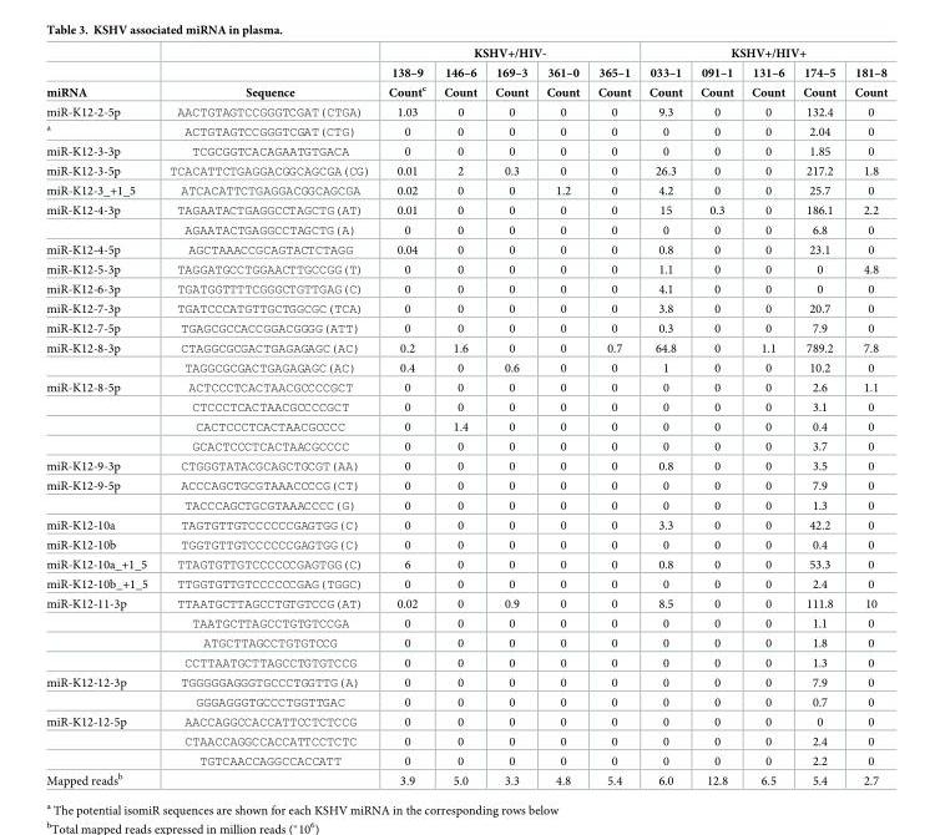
<table><thead><tr><td rowspan="3">miRNA</td><td rowspan="3">Sequence</td><td colspan="5">KSHV+/HIV-</td><td colspan="5">KSHV+/HIV+</td></tr><tr><td rowspan="2">138–9 Count<sup>c</sup></td><td rowspan="2">146–6 Count</td><td rowspan="2">169–3 Count</td><td rowspan="2">361–0 Count</td><td rowspan="2">365–1 Count</td><td rowspan="2">033–1 Count</td><td rowspan="2">091–1 Count</td><td rowspan="2">131–6 Count</td><td rowspan="2">174–5 Count</td><td rowspan="2">181–8 Count</td></tr><tr></tr></thead><tbody><tr><td>miR-K12-2-5p</td><td>AACTGTAGTCCGGGTCGAT(CTGA)</td><td>1.03</td><td>0</td><td>0</td><td>0</td><td>0</td><td>9.3</td><td>0</td><td>0</td><td>132.4</td><td>0</td></tr><tr><td><sup>a</sup></td><td>ACTGTAGTCCGGGTCGAT(CTG)</td><td>0</td><td>0</td><td>0</td><td>0</td><td>0</td><td>0</td><td>0</td><td>0</td><td>2.04</td><td>0</td></tr><tr><td>miR-K12-3-3p</td><td>TCGCGGTCACAGAATGTGACA</td><td>0</td><td>0</td><td>0</td><td>0</td><td>0</td><td>0</td><td>0</td><td>0</td><td>1.85</td><td>0</td></tr><tr><td>miR-K12-3-5p</td><td>TCACATTCTGAGGACGGCAGCGA(CG)</td><td>0.01</td><td>2</td><td>0.3</td><td>0</td><td>0</td><td>26.3</td><td>0</td><td>0</td><td>217.2</td><td>1.8</td></tr><tr><td>miR-K12-3_+1_5</td><td>ATCACATTCTGAGGACGGCAGCGA</td><td>0.02</td><td>0</td><td>0</td><td>1.2</td><td>0</td><td>4.2</td><td>0</td><td>0</td><td>25.7</td><td>0</td></tr><tr><td rowspan="2">miR-K12-4-3p</td><td>TAGAATACTGAGGCCTAGCTG(AT)</td><td>0.01</td><td>0</td><td>0</td><td>0</td><td>0</td><td>15</td><td>0.3</td><td>0</td><td>186.1</td><td>2.2</td></tr><tr><td>AGAATACTGAGGCCTAGCTG(A)</td><td>0</td><td>0</td><td>0</td><td>0</td><td>0</td><td>0</td><td>0</td><td>0</td><td>6.8</td><td>0</td></tr><tr><td>miR-K12-4-5p</td><td>AGCTAAACCGCAGTACTCTAGG</td><td>0.04</td><td>0</td><td>0</td><td>0</td><td>0</td><td>0.8</td><td>0</td><td>0</td><td>23.1</td><td>0</td></tr><tr><td>miR-K12-5-3p</td><td>TAGGATGCCTGGAACTTGCCGG(T)</td><td>0</td><td>0</td><td>0</td><td>0</td><td>0</td><td>1.1</td><td>0</td><td>0</td><td>0</td><td>4.8</td></tr><tr><td>miR-K12-6-3p</td><td>TGATGGTTTTCGGGCTGTTGAG(C)</td><td>0</td><td>0</td><td>0</td><td>0</td><td>0</td><td>4.1</td><td>0</td><td>0</td><td>0</td><td>0</td></tr><tr><td>miR-K12-7-3p</td><td>TGATCCCATGTTGCTGGCGC(TCA)</td><td>0</td><td>0</td><td>0</td><td>0</td><td>0</td><td>3.8</td><td>0</td><td>0</td><td>20.7</td><td>0</td></tr><tr><td>miR-K12-7-5p</td><td>TGAGCGCCACCGGACGGGG(ATT)</td><td>0</td><td>0</td><td>0</td><td>0</td><td>0</td><td>0.3</td><td>0</td><td>0</td><td>7.9</td><td>0</td></tr><tr><td rowspan="2">miR-K12-8-3p</td><td>CTAGGCGCGACTGAGAGAGC(AC)</td><td>0.2</td><td>1.6</td><td>0</td><td>0</td><td>0.7</td><td>64.8</td><td>0</td><td>1.1</td><td>789.2</td><td>7.8</td></tr><tr><td>TAGGCGCGACTGAGAGAGC(AC)</td><td>0.4</td><td>0</td><td>0.6</td><td>0</td><td>0</td><td>1</td><td>0</td><td>0</td><td>10.2</td><td>0</td></tr><tr><td rowspan="4">miR-K12-8-5p</td><td>ACTCCCTCACTAACGCCCCGCT</td><td>0</td><td>0</td><td>0</td><td>0</td><td>0</td><td>0</td><td>0</td><td>0</td><td>2.6</td><td>1.1</td></tr><tr><td>CTCCCTCACTAACGCCCCGCT</td><td>0</td><td>0</td><td>0</td><td>0</td><td>0</td><td>0</td><td>0</td><td>0</td><td>3.1</td><td>0</td></tr><tr><td>CACTCCCTCACTAACGCCCC</td><td>0</td><td>1.4</td><td>0</td><td>0</td><td>0</td><td>0</td><td>0</td><td>0</td><td>0.4</td><td>0</td></tr><tr><td>GCACTCCCTCACTAACGCCCC</td><td>0</td><td>0</td><td>0</td><td>0</td><td>0</td><td>0</td><td>0</td><td>0</td><td>3.7</td><td>0</td></tr><tr><td>miR-K12-9-3p</td><td>CTGGGTATACGCAGCTGCGT(AA)</td><td>0</td><td>0</td><td>0</td><td>0</td><td>0</td><td>0.8</td><td>0</td><td>0</td><td>3.5</td><td>0</td></tr><tr><td rowspan="2">miR-K12-9-5p</td><td>ACCCAGCTGCGTAAACCCCG(CT)</td><td>0</td><td>0</td><td>0</td><td>0</td><td>0</td><td>0</td><td>0</td><td>0</td><td>7.9</td><td>0</td></tr><tr><td>TACCCAGCTGCGTAAACCCC(G)</td><td>0</td><td>0</td><td>0</td><td>0</td><td>0</td><td>0</td><td>0</td><td>0</td><td>1.3</td><td>0</td></tr><tr><td>miR-K12-10a</td><td>TAGTGTTGTCCCCCCGAGTGG(C)</td><td>0</td><td>0</td><td>0</td><td>0</td><td>0</td><td>3.3</td><td>0</td><td>0</td><td>42.2</td><td>0</td></tr><tr><td>miR-K12-10b</td><td>TGGTGTTGTCCCCCCGAGTGG(C)</td><td>0</td><td>0</td><td>0</td><td>0</td><td>0</td><td>0</td><td>0</td><td>0</td><td>0.4</td><td>0</td></tr><tr><td>miR-K12-10a_+1_5</td><td>TTAGTGTTGTCCCCCCGAGTGG(C)</td><td>6</td><td>0</td><td>0</td><td>0</td><td>0</td><td>0.8</td><td>0</td><td>0</td><td>53.3</td><td>0</td></tr><tr><td>miR-K12-10b_+1_5</td><td>TTGGTGTTGTCCCCCCGAG(TGGC)</td><td>0</td><td>0</td><td>0</td><td>0</td><td>0</td><td>0</td><td>0</td><td>0</td><td>2.4</td><td>0</td></tr><tr><td rowspan="4">miR-K12-11-3p</td><td>TTAATGCTTAGCCTGTGTCCG(AT)</td><td>0.02</td><td>0</td><td>0.9</td><td>0</td><td>0</td><td>8.5</td><td>0</td><td>0</td><td>111.8</td><td>10</td></tr><tr><td>TAATGCTTAGCCTGTGTCCGA</td><td>0</td><td>0</td><td>0</td><td>0</td><td>0</td><td>0</td><td>0</td><td>0</td><td>1.1</td><td>0</td></tr><tr><td>ATGCTTAGCCTGTGTCCG</td><td>0</td><td>0</td><td>0</td><td>0</td><td>0</td><td>0</td><td>0</td><td>0</td><td>1.8</td><td>0</td></tr><tr><td>CCTTAATGCTTAGCCTGTGTCCG</td><td>0</td><td>0</td><td>0</td><td>0</td><td>0</td><td>0</td><td>0</td><td>0</td><td>1.3</td><td>0</td></tr><tr><td rowspan="2">miR-K12-12-3p</td><td>TGGGGGAGGGTGCCCTGGTTG(A)</td><td>0</td><td>0</td><td>0</td><td>0</td><td>0</td><td>0</td><td>0</td><td>0</td><td>7.9</td><td>0</td></tr><tr><td>GGGAGGGTGCCCTGGTTGAC</td><td>0</td><td>0</td><td>0</td><td>0</td><td>0</td><td>0</td><td>0</td><td>0</td><td>0.7</td><td>0</td></tr><tr><td rowspan="3">miR-K12-12-5p</td><td>AACCAGGCCACCATTCCTCTCCG</td><td>0</td><td>0</td><td>0</td><td>0</td><td>0</td><td>0</td><td>0</td><td>0</td><td>0</td><td>0</td></tr><tr><td>CTAACCAGGCCACCATTCCTCTC</td><td>0</td><td>0</td><td>0</td><td>0</td><td>0</td><td>0</td><td>0</td><td>0</td><td>2.4</td><td>0</td></tr><tr><td>TGTCAACCAGGCCACCATT</td><td>0</td><td>0</td><td>0</td><td>0</td><td>0</td><td>0</td><td>0</td><td>0</td><td>2.2</td><td>0</td></tr><tr><td>Mapped reads<sup>b</sup></td><td></td><td>3.9</td><td>5.0</td><td>3.3</td><td>4.8</td><td>5.4</td><td>6.0</td><td>12.8</td><td>6.5</td><td>5.4</td><td>2.7</td></tr></tbody></table>